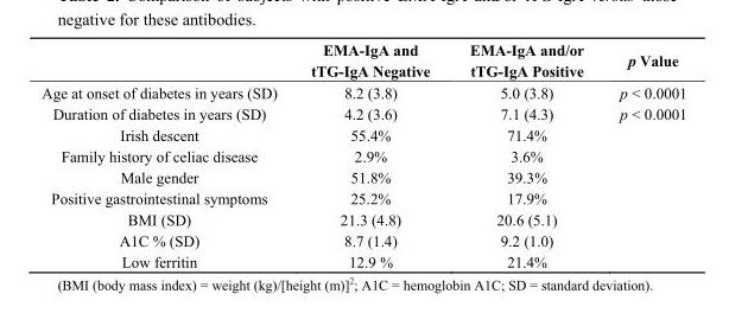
<table><thead><tr><td></td><td>EMA-IgA and tTG-IgA Negative</td><td>EMA-IgA and/or tTG-IgA Positive</td><td>p Value</td></tr></thead><tbody><tr><td>Age at onset of diabetes in years (SD)</td><td>8.2 (3.8)</td><td>5.0 (3.8)</td><td>p &lt; 0.0001</td></tr><tr><td>Duration of diabetes in years (SD)</td><td>4.2 (3.6)</td><td>7.1 (4.3)</td><td>p &lt; 0.0001</td></tr><tr><td>Irish descent</td><td>55.4%</td><td>71.4%</td><td></td></tr><tr><td>Family history of celiac disease</td><td>2.9%</td><td>3.6%</td><td></td></tr><tr><td>Male gender</td><td>51.8%</td><td>39.3%</td><td></td></tr><tr><td>Positive gastrointestinal symptoms</td><td>25.2%</td><td>17.9%</td><td></td></tr><tr><td>BMI (SD)</td><td>21.3 (4.8)</td><td>20.6 (5.1)</td><td></td></tr><tr><td>A1C % (SD)</td><td>8.7 (1.4)</td><td>9.2 (1.0)</td><td></td></tr><tr><td>Low ferritin</td><td>12.9 %</td><td>21.4%</td><td></td></tr></tbody></table>